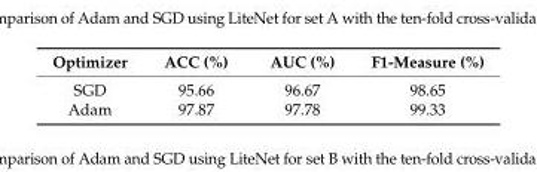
<table><thead><tr><td>Optimizer</td><td>ACC (%)</td><td>AUC (%)</td><td>F1-Measure (%)</td></tr></thead><tbody><tr><td>SGD</td><td>95.66</td><td>96.67</td><td>98.65</td></tr><tr><td>Adam</td><td>97.87</td><td>97.78</td><td>99.33</td></tr></tbody></table>